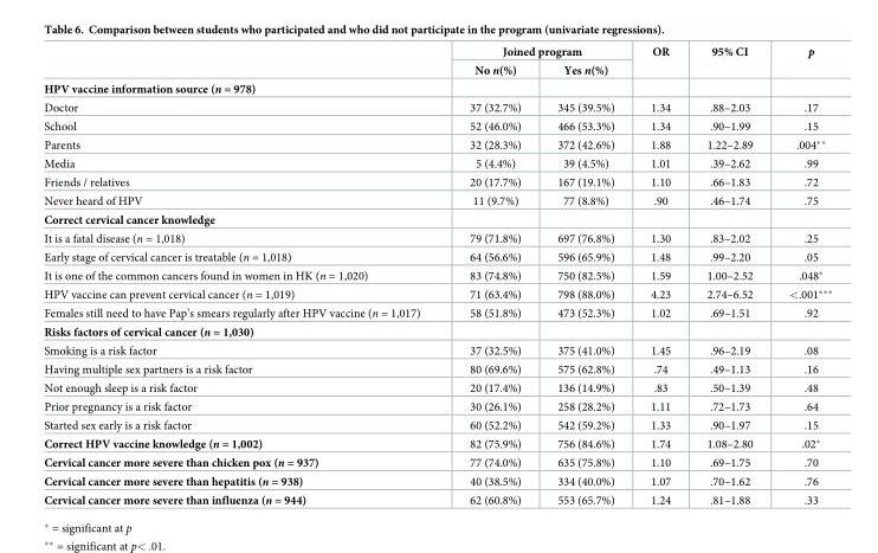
<table><thead><tr><td rowspan="2"></td><td colspan="2">Joined program</td><td rowspan="2">OR</td><td rowspan="2">95% CI</td><td rowspan="2">p</td></tr><tr><td>No n(%)</td><td>Yes n(%)</td></tr></thead><tbody><tr><td colspan="6">HPV vaccine information source (n = 978)</td></tr><tr><td>Doctor</td><td>37 (32.7%)</td><td>345 (39.5%)</td><td>1.34</td><td>.88–2.03</td><td>.17</td></tr><tr><td>School</td><td>52 (46.0%)</td><td>466 (53.3%)</td><td>1.34</td><td>.90–1.99</td><td>.15</td></tr><tr><td>Parents</td><td>32 (28.3%)</td><td>372 (42.6%)</td><td>1.88</td><td>1.22–2.89</td><td>.004**</td></tr><tr><td>Media</td><td>5 (4.4%)</td><td>39 (4.5%)</td><td>1.01</td><td>.39–2.62</td><td>.99</td></tr><tr><td>Friends / relatives</td><td>20 (17.7%)</td><td>167 (19.1%)</td><td>1.10</td><td>.66–1.83</td><td>.72</td></tr><tr><td>Never heard of HPV</td><td>11 (9.7%)</td><td>77 (8.8%)</td><td>.90</td><td>.46–1.74</td><td>.75</td></tr><tr><td colspan="6">Correct cervical cancer knowledge</td></tr><tr><td>It is a fatal disease (n = 1,018)</td><td>79 (71.8%)</td><td>697 (76.8%)</td><td>1.30</td><td>.83–2.02</td><td>.25</td></tr><tr><td>Early stage of cervical cancer is treatable (n = 1,018)</td><td>64 (56.6%)</td><td>596 (65.9%)</td><td>1.48</td><td>.99–2.20</td><td>.05</td></tr><tr><td>It is one of the common cancers found in women in HK (n = 1,020)</td><td>83 (74.8%)</td><td>750 (82.5%)</td><td>1.59</td><td>1.00–2.52</td><td>.048*</td></tr><tr><td>HPV vaccine can prevent cervical cancer (n = 1,019)</td><td>71 (63.4%)</td><td>798 (88.0%)</td><td>4.23</td><td>2.74–6.52</td><td>&lt;.001***</td></tr><tr><td>Females still need to have Pap’s smears regularly after HPV vaccine (n = 1,017)</td><td>58 (51.8%)</td><td>473 (52.3%)</td><td>1.02</td><td>.69–1.51</td><td>.92</td></tr><tr><td colspan="6">Risks factors of cervical cancer (n = 1,030)</td></tr><tr><td>Smoking is a risk factor</td><td>37 (32.5%)</td><td>375 (41.0%)</td><td>1.45</td><td>.96–2.19</td><td>.08</td></tr><tr><td>Having multiple sex partners is a risk factor</td><td>80 (69.6%)</td><td>575 (62.8%)</td><td>.74</td><td>.49–1.13</td><td>.16</td></tr><tr><td>Not enough sleep is a risk factor</td><td>20 (17.4%)</td><td>136 (14.9%)</td><td>.83</td><td>.50–1.39</td><td>.48</td></tr><tr><td>Prior pregnancy is a risk factor</td><td>30 (26.1%)</td><td>258 (28.2%)</td><td>1.11</td><td>.72–1.73</td><td>.64</td></tr><tr><td>Started sex early is a risk factor</td><td>60 (52.2%)</td><td>542 (59.2%)</td><td>1.33</td><td>.90–1.97</td><td>.15</td></tr><tr><td>Correct HPV vaccine knowledge (n = 1,002)</td><td>82 (75.9%)</td><td>756 (84.6%)</td><td>1.74</td><td>1.08–2.80</td><td>.02*</td></tr><tr><td>Cervical cancer more severe than chicken pox (n = 937)</td><td>77 (74.0%)</td><td>635 (75.8%)</td><td>1.10</td><td>.69–1.75</td><td>.70</td></tr><tr><td>Cervical cancer more severe than hepatitis (n = 938)</td><td>40 (38.5%)</td><td>334 (40.0%)</td><td>1.07</td><td>.70–1.62</td><td>.76</td></tr><tr><td>Cervical cancer more severe than influenza (n = 944)</td><td>62 (60.8%)</td><td>553 (65.7%)</td><td>1.24</td><td>.81–1.88</td><td>.33</td></tr></tbody></table>